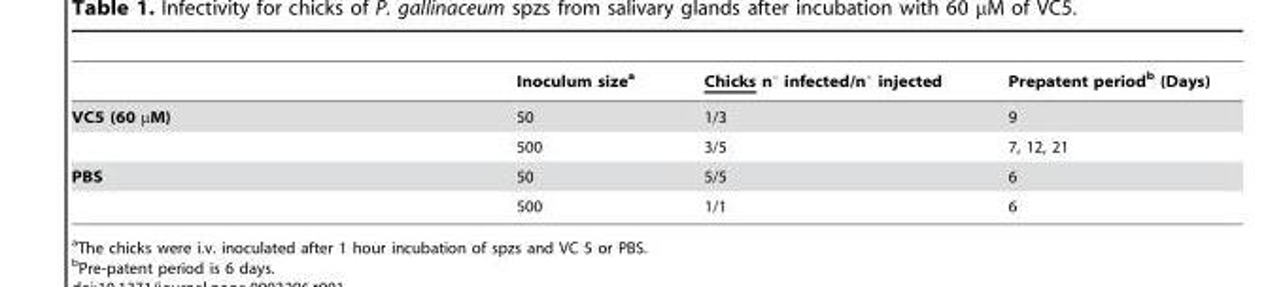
<table><thead><tr><td></td><td>Inoculum size<sup>a</sup></td><td>Chicks n° infected/n° injected</td><td>Prepatent period<sup>b</sup> (Days)</td></tr></thead><tbody><tr><td rowspan="2">VC5 (60 μM)</td><td>50</td><td>1/3</td><td>9</td></tr><tr><td>500</td><td>3/5</td><td>7, 12, 21</td></tr><tr><td rowspan="2">PBS</td><td>50</td><td>5/5</td><td>6</td></tr><tr><td>500</td><td>1/1</td><td>6</td></tr></tbody></table>